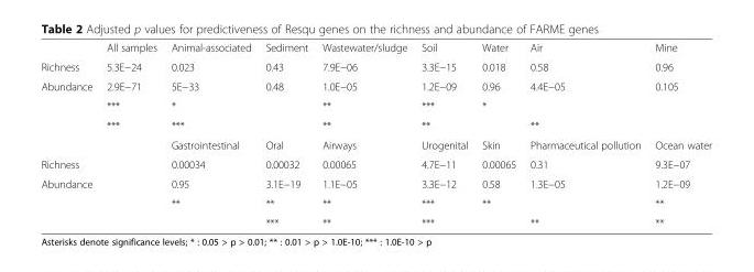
<table><thead><tr><td></td><td>All samples</td><td>Animal-associated</td><td>Sediment</td><td>Wastewater/sludge</td><td>Soil</td><td>Water</td><td>Air</td><td>Mine</td></tr></thead><tbody><tr><td>Richness</td><td>5.3E−24</td><td>0.023</td><td>0.43</td><td>7.9E−06</td><td>3.3E−15</td><td>0.018</td><td>0.58</td><td>0.96</td></tr><tr><td rowspan="4">Abundance</td><td>2.9E−71</td><td>5E−33</td><td>0.48</td><td>1.0E−05</td><td>1.2E−09</td><td>0.96</td><td>4.4E−05</td><td>0.105</td></tr><tr><td>***</td><td>*</td><td></td><td>**</td><td>***</td><td>*</td><td></td><td></td></tr><tr><td>***</td><td>***</td><td></td><td>**</td><td>**</td><td></td><td>**</td><td></td></tr><tr><td></td><td>Gastrointestinal</td><td>Oral</td><td>Airways</td><td>Urogenital</td><td>Skin</td><td>Pharmaceutical pollution</td><td>Ocean water</td></tr><tr><td>Richness</td><td></td><td>0.00034</td><td>0.00032</td><td>0.00065</td><td>4.7E−11</td><td>0.00065</td><td>0.31</td><td>9.3E−07</td></tr><tr><td rowspan="3">Abundance</td><td></td><td>0.95</td><td>3.1E−19</td><td>1.1E−05</td><td>3.3E−12</td><td>0.58</td><td>1.3E−05</td><td>1.2E−09</td></tr><tr><td></td><td>**</td><td>**</td><td>**</td><td>***</td><td>**</td><td></td><td>**</td></tr><tr><td></td><td></td><td>***</td><td>**</td><td>***</td><td></td><td>**</td><td>**</td></tr></tbody></table>